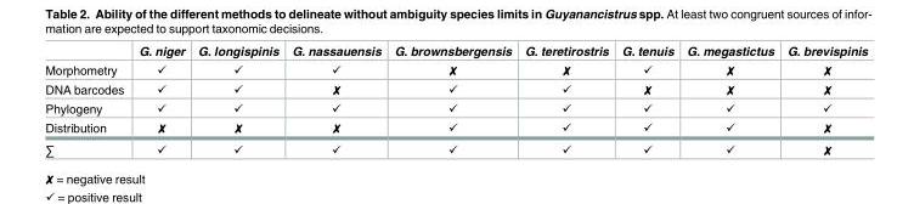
<table><thead><tr><td></td><td>G. niger</td><td>G. longispinis</td><td>G. nassauensis</td><td>G. brownsbergensis</td><td>G. teretirostris</td><td>G. tenuis</td><td>G. megastictus</td><td>G. brevispinis</td></tr></thead><tbody><tr><td>Morphometry</td><td>✓</td><td>✓</td><td>✓</td><td>✘</td><td>✘</td><td>✓</td><td>✘</td><td>✘</td></tr><tr><td>DNA barcodes</td><td>✓</td><td>✓</td><td>✘</td><td>✓</td><td>✓</td><td>✘</td><td>✘</td><td>✘</td></tr><tr><td>Phylogeny</td><td>✓</td><td>✓</td><td>✓</td><td>✓</td><td>✓</td><td>✓</td><td>✓</td><td>✓</td></tr><tr><td>Distribution</td><td>✘</td><td>✘</td><td>✘</td><td>✓</td><td>✓</td><td>✓</td><td>✓</td><td>✘</td></tr><tr><td>∑</td><td>✓</td><td>✓</td><td>✓</td><td>✓</td><td>✓</td><td>✓</td><td>✓</td><td>✘</td></tr></tbody></table>